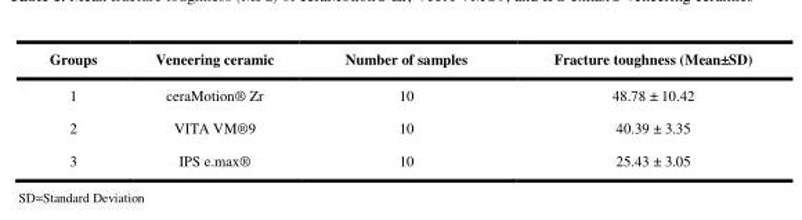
<table><thead><tr><td>Groups</td><td>Veneering ceramic</td><td>Number of samples</td><td>Fracture toughness (Mean±SD)</td></tr></thead><tbody><tr><td>1</td><td>ceraMotion® Zr</td><td>10</td><td>48.78 ± 10.42</td></tr><tr><td>2</td><td>VITA VM®9</td><td>10</td><td>40.39 ± 3.35</td></tr><tr><td>3</td><td>IPS e.max®</td><td>10</td><td>25.43 ± 3.05</td></tr></tbody></table>